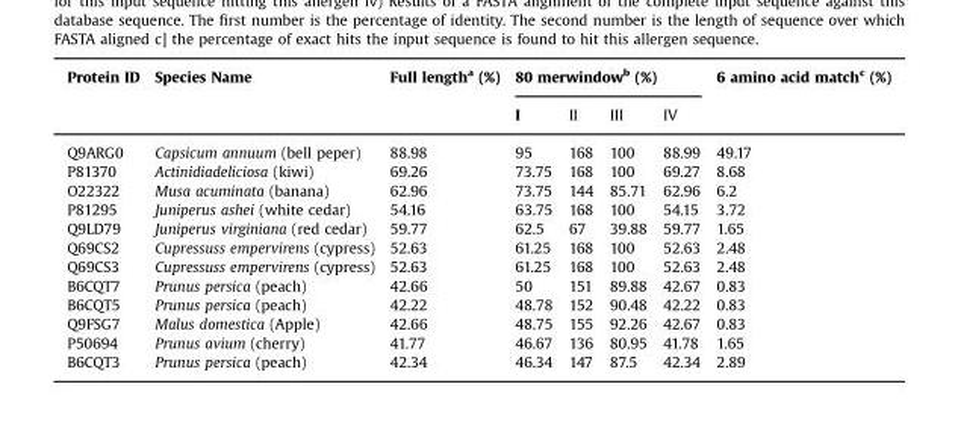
<table><thead><tr><td rowspan="2">Protein ID</td><td rowspan="2">Species Name</td><td rowspan="2">Full length<sup>a</sup> (%)</td><td colspan="4">80 merwindow<sup>b</sup> (%)</td><td rowspan="2">6 amino acid match<sup>c</sup> (%)</td></tr><tr><td>I</td><td>II</td><td>III</td><td>IV</td></tr></thead><tbody><tr><td>Q9ARG0</td><td>Capsicum annuum (bell peper)</td><td>88.98</td><td>95</td><td>168</td><td>100</td><td>88.99</td><td>49.17</td></tr><tr><td>P81370</td><td>Actinidiadeliciosa (kiwi)</td><td>69.26</td><td>73.75</td><td>168</td><td>100</td><td>69.27</td><td>8.68</td></tr><tr><td>O22322</td><td>Musa acuminata (banana)</td><td>62.96</td><td>73.75</td><td>144</td><td>85.71</td><td>62.96</td><td>6.2</td></tr><tr><td>P81295</td><td>Juniperus ashei (white cedar)</td><td>54.16</td><td>63.75</td><td>168</td><td>100</td><td>54.15</td><td>3.72</td></tr><tr><td>Q9LD79</td><td>Juniperus virginiana (red cedar)</td><td>59.77</td><td>62.5</td><td>67</td><td>39.88</td><td>59.77</td><td>1.65</td></tr><tr><td>Q69CS2</td><td>Cupressuss empervirens (cypress)</td><td>52.63</td><td>61.25</td><td>168</td><td>100</td><td>52.63</td><td>2.48</td></tr><tr><td>Q69CS3</td><td>Cupressuss empervirens (cypress)</td><td>52.63</td><td>61.25</td><td>168</td><td>100</td><td>52.63</td><td>2.48</td></tr><tr><td>B6CQT7</td><td>Prunus persica (peach)</td><td>42.66</td><td>50</td><td>151</td><td>89.88</td><td>42.67</td><td>0.83</td></tr><tr><td>B6CQT5</td><td>Prunus persica (peach)</td><td>42.22</td><td>48.78</td><td>152</td><td>90.48</td><td>42.22</td><td>0.83</td></tr><tr><td>Q9FSG7</td><td>Malus domestica (Apple)</td><td>42.66</td><td>48.75</td><td>155</td><td>92.26</td><td>42.67</td><td>0.83</td></tr><tr><td>P50694</td><td>Prunus avium (cherry)</td><td>41.77</td><td>46.67</td><td>136</td><td>80.95</td><td>41.78</td><td>1.65</td></tr><tr><td>B6CQT3</td><td>Prunus persica (peach)</td><td>42.34</td><td>46.34</td><td>147</td><td>87.5</td><td>42.34</td><td>2.89</td></tr></tbody></table>